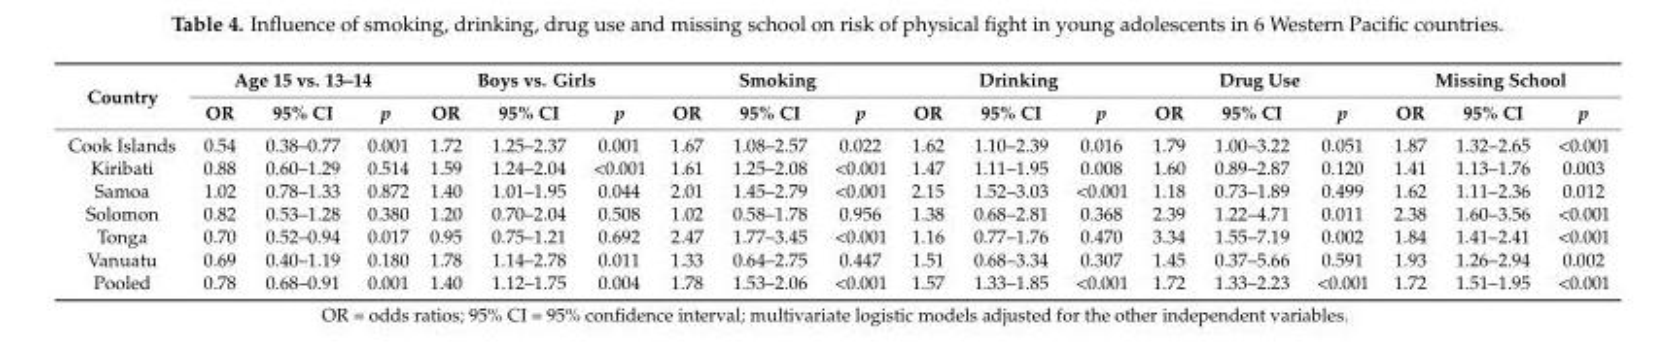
<table><thead><tr><td rowspan="2">Country</td><td colspan="3">Age 15 vs. 13–14</td><td colspan="3">Boys vs. Girls</td><td colspan="3">Smoking</td><td colspan="3">Drinking</td><td colspan="3">Drug Use</td><td colspan="3">Missing School</td></tr><tr><td>OR</td><td>95% CI</td><td>p</td><td>OR</td><td>95% CI</td><td>p</td><td>OR</td><td>95% CI</td><td>p</td><td>OR</td><td>95% CI</td><td>p</td><td>OR</td><td>95% CI</td><td>p</td><td>OR</td><td>95% CI</td><td>p</td></tr></thead><tbody><tr><td>Cook Islands</td><td>0.54</td><td>0.38–0.77</td><td>0.001</td><td>1.72</td><td>1.25–2.37</td><td>0.001</td><td>1.67</td><td>1.08–2.57</td><td>0.022</td><td>1.62</td><td>1.10–2.39</td><td>0.016</td><td>1.79</td><td>1.00–3.22</td><td>0.051</td><td>1.87</td><td>1.32–2.65</td><td>&lt;0.001</td></tr><tr><td>Kiribati</td><td>0.88</td><td>0.60–1.29</td><td>0.514</td><td>1.59</td><td>1.24–2.04</td><td>&lt;0.001</td><td>1.61</td><td>1.25–2.08</td><td>&lt;0.001</td><td>1.47</td><td>1.11–1.95</td><td>0.008</td><td>1.60</td><td>0.89–2.87</td><td>0.120</td><td>1.41</td><td>1.13–1.76</td><td>0.003</td></tr><tr><td>Samoa</td><td>1.02</td><td>0.78–1.33</td><td>0.872</td><td>1.40</td><td>1.01–1.95</td><td>0.044</td><td>2.01</td><td>1.45–2.79</td><td>&lt;0.001</td><td>2.15</td><td>1.52–3.03</td><td>&lt;0.001</td><td>1.18</td><td>0.73–1.89</td><td>0.499</td><td>1.62</td><td>1.11–2.36</td><td>0.012</td></tr><tr><td>Solomon</td><td>0.82</td><td>0.53–1.28</td><td>0.380</td><td>1.20</td><td>0.70–2.04</td><td>0.508</td><td>1.02</td><td>0.58–1.78</td><td>0.956</td><td>1.38</td><td>0.68–2.81</td><td>0.368</td><td>2.39</td><td>1.22–4.71</td><td>0.011</td><td>2.38</td><td>1.60–3.56</td><td>&lt;0.001</td></tr><tr><td>Tonga</td><td>0.70</td><td>0.52–0.94</td><td>0.017</td><td>0.95</td><td>0.75–1.21</td><td>0.692</td><td>2.47</td><td>1.77–3.45</td><td>&lt;0.001</td><td>1.16</td><td>0.77–1.76</td><td>0.470</td><td>3.34</td><td>1.55–7.19</td><td>0.002</td><td>1.84</td><td>1.41–2.41</td><td>&lt;0.001</td></tr><tr><td>Vanuatu</td><td>0.69</td><td>0.40–1.19</td><td>0.180</td><td>1.78</td><td>1.14–2.78</td><td>0.011</td><td>1.33</td><td>0.64–2.75</td><td>0.447</td><td>1.51</td><td>0.68–3.34</td><td>0.307</td><td>1.45</td><td>0.37–5.66</td><td>0.591</td><td>1.93</td><td>1.26–2.94</td><td>0.002</td></tr><tr><td>Pooled</td><td>0.78</td><td>0.68–0.91</td><td>0.001</td><td>1.40</td><td>1.12–1.75</td><td>0.004</td><td>1.78</td><td>1.53–2.06</td><td>&lt;0.001</td><td>1.57</td><td>1.33–1.85</td><td>&lt;0.001</td><td>1.72</td><td>1.33–2.23</td><td>&lt;0.001</td><td>1.72</td><td>1.51–1.95</td><td>&lt;0.001</td></tr></tbody></table>